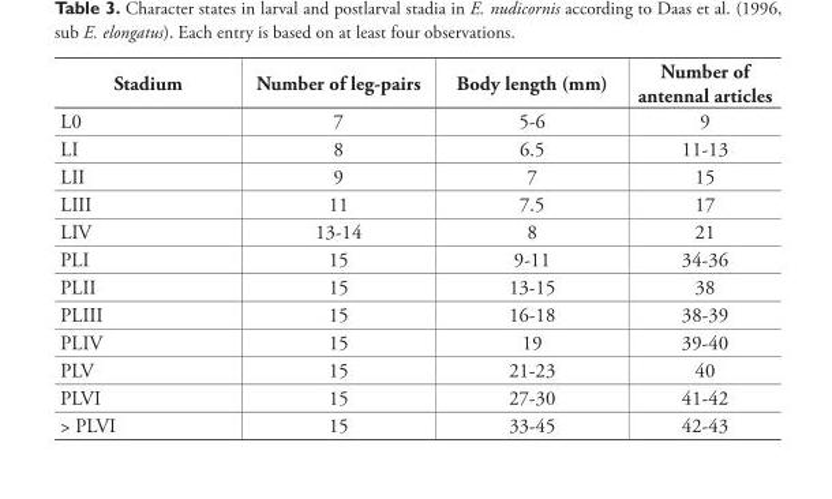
<table><thead><tr><td>Stadium</td><td>Number of leg-pairs</td><td>Body length (mm)</td><td>Number of antennal articles</td></tr></thead><tbody><tr><td>L0</td><td>7</td><td>5-6</td><td>9</td></tr><tr><td>LI</td><td>8</td><td>6.5</td><td>11-13</td></tr><tr><td>LII</td><td>9</td><td>7</td><td>15</td></tr><tr><td>LIII</td><td>11</td><td>7.5</td><td>17</td></tr><tr><td>LIV</td><td>13-14</td><td>8</td><td>21</td></tr><tr><td>PLI</td><td>15</td><td>9-11</td><td>34-36</td></tr><tr><td>PLII</td><td>15</td><td>13-15</td><td>38</td></tr><tr><td>PLIII</td><td>15</td><td>16-18</td><td>38-39</td></tr><tr><td>PLIV</td><td>15</td><td>19</td><td>39-40</td></tr><tr><td>PLV</td><td>15</td><td>21-23</td><td>40</td></tr><tr><td>PLVI</td><td>15</td><td>27-30</td><td>41-42</td></tr><tr><td>&gt; PLVI</td><td>15</td><td>33-45</td><td>42-43</td></tr></tbody></table>